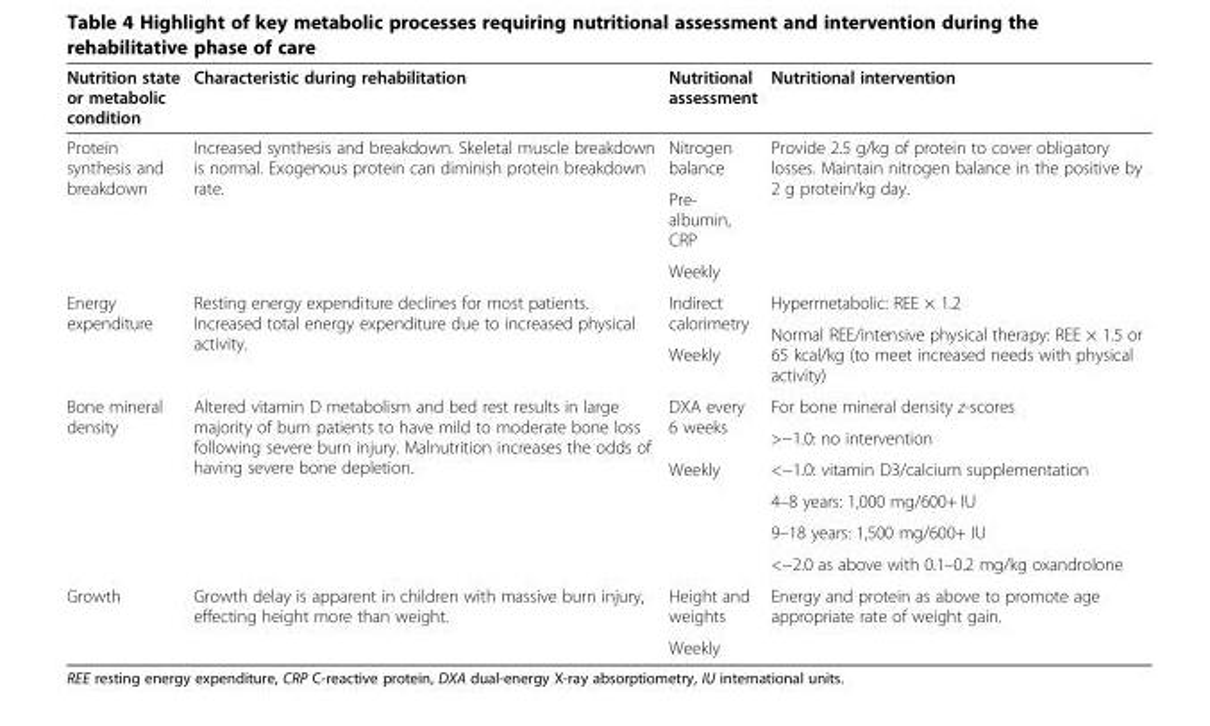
<table><thead><tr><td>Nutrition state or metabolic condition</td><td>Characteristic during rehabilitation</td><td>Nutritional assessment</td><td>Nutritional intervention</td></tr></thead><tbody><tr><td rowspan="3">Protein synthesis and breakdown</td><td rowspan="3">Increased synthesis and breakdown. Skeletal muscle breakdown is normal. Exogenous protein can diminish protein breakdown rate.</td><td>Nitrogen balance</td><td rowspan="3">Provide 2.5 g/kg of protein to cover obligatory losses. Maintain nitrogen balance in the positive by 2 g protein/kg day.</td></tr><tr><td>Pre- albumin, CRP</td></tr><tr><td>Weekly</td></tr><tr><td rowspan="3">Energy expenditure</td><td rowspan="3">Resting energy expenditure declines for most patients. Increased total energy expenditure due to increased physical activity.</td><td rowspan="2">Indirect calorimetry</td><td>Hypermetabolic: REE × 1.2</td></tr><tr><td rowspan="2">Normal REE/intensive physical therapy: REE × 1.5 or 65 kcal/kg (to meet increased needs with physical activity)</td></tr><tr><td>Weekly</td></tr><tr><td rowspan="6">Bone mineral density</td><td rowspan="6">Altered vitamin D metabolism and bed rest results in large majority of burn patients to have mild to moderate bone loss following severe burn injury. Malnutrition increases the odds of having severe bone depletion.</td><td rowspan="2">DXA every 6 weeks</td><td>For bone mineral density z-scores</td></tr><tr><td>&gt;−1.0: no intervention</td></tr><tr><td rowspan="4">Weekly</td><td>&lt;−1.0: vitamin D3/calcium supplementation</td></tr><tr><td>4–8 years: 1,000 mg/600+ IU</td></tr><tr><td>9–18 years: 1,500 mg/600+ IU</td></tr><tr><td>&lt;−2.0 as above with 0.1–0.2 mg/kg oxandrolone</td></tr><tr><td rowspan="2">Growth</td><td rowspan="2">Growth delay is apparent in children with massive burn injury, effecting height more than weight.</td><td>Height and weights</td><td rowspan="2">Energy and protein as above to promote age appropriate rate of weight gain.</td></tr><tr><td>Weekly</td></tr></tbody></table>